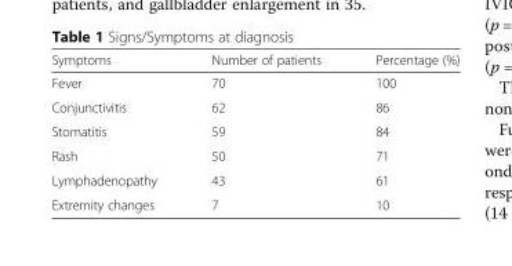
<table><thead><tr><td>Symptoms</td><td>Number of patients</td><td>Percentage (%)</td></tr></thead><tbody><tr><td>Fever</td><td>70</td><td>100</td></tr><tr><td>Conjunctivitis</td><td>62</td><td>86</td></tr><tr><td>Stomatitis</td><td>59</td><td>84</td></tr><tr><td>Rash</td><td>50</td><td>71</td></tr><tr><td>Lymphadenopathy</td><td>43</td><td>61</td></tr><tr><td>Extremity changes</td><td>7</td><td>10</td></tr></tbody></table>